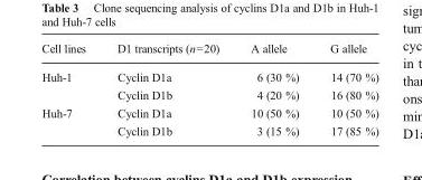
<table><thead><tr><td>Cell lines</td><td>D1 transcripts (n=20)</td><td>A allele</td><td>G allele</td></tr></thead><tbody><tr><td rowspan="2">Huh-1</td><td>Cyclin D1a</td><td>6 (30 %)</td><td>14 (70 %)</td></tr><tr><td>Cyclin D1b</td><td>4 (20 %)</td><td>16 (80 %)</td></tr><tr><td rowspan="2">Huh-7</td><td>Cyclin D1a</td><td>10 (50 %)</td><td>10 (50 %)</td></tr><tr><td>Cyclin D1b</td><td>3 (15 %)</td><td>17 (85 %)</td></tr></tbody></table>